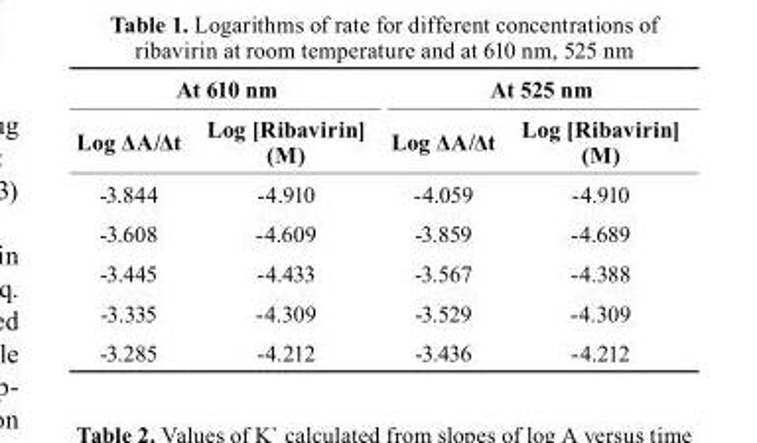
<table><thead><tr><td colspan="2">At 610 nm</td><td colspan="2">At 525 nm</td></tr><tr><td>Log ΔA/Δt</td><td>Log [ribavirin] (M)</td><td>Log ΔA/Δt</td><td>Log [ribavirin] (M)</td></tr></thead><tbody><tr><td>-3.844</td><td>-4.910</td><td>-4.059</td><td>-4.910</td></tr><tr><td>-3.608</td><td>-4.609</td><td>-3.859</td><td>-4.689</td></tr><tr><td>-3.445</td><td>-4.433</td><td>-3.567</td><td>-4.388</td></tr><tr><td>-3.335</td><td>-4.309</td><td>-3.529</td><td>-4.309</td></tr><tr><td>-3.285</td><td>-4.212</td><td>-3.436</td><td>-4.212</td></tr></tbody></table>